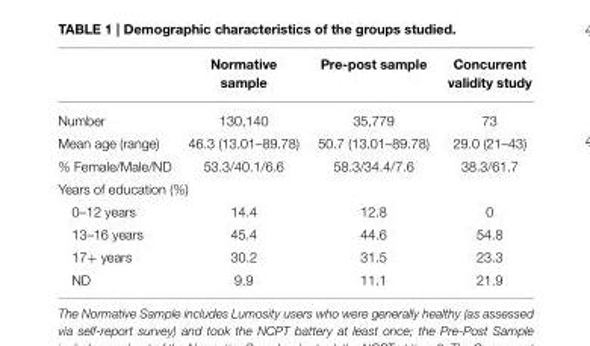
<table><thead><tr><td></td><td>Normative sample</td><td>Pre-post sample</td><td>Concurrent validity study</td></tr></thead><tbody><tr><td>Number</td><td>130,140</td><td>35,779</td><td>73</td></tr><tr><td>Mean age (range)</td><td>46.3 (13.01–89.78)</td><td>50.7 (13.01–89.78)</td><td>29.0 (21–43)</td></tr><tr><td>% Female/Male/ND</td><td>53.3/40.1/6.6</td><td>58.3/34.4/7.6</td><td>38.3/61.7</td></tr><tr><td colspan="4">Years of education (%)</td></tr><tr><td>0–12 years</td><td>14.4</td><td>12.8</td><td>0</td></tr><tr><td>13–16 years</td><td>45.4</td><td>44.6</td><td>54.8</td></tr><tr><td>17+ years</td><td>30.2</td><td>31.5</td><td>23.3</td></tr><tr><td>ND</td><td>9.9</td><td>11.1</td><td>21.9</td></tr></tbody></table>